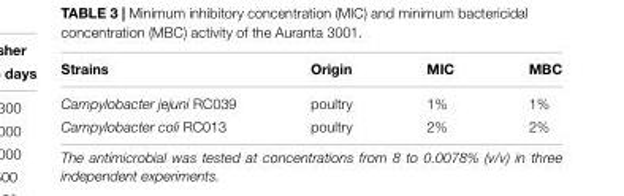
<table><thead><tr><td>Strains</td><td>Origin</td><td>MIC</td><td>MBC</td></tr></thead><tbody><tr><td>Campylobacter jejuni RC039</td><td>poultry</td><td>1%</td><td>1%</td></tr><tr><td>Campylobacter coli RC013</td><td>poultry</td><td>2%</td><td>2%</td></tr></tbody></table>